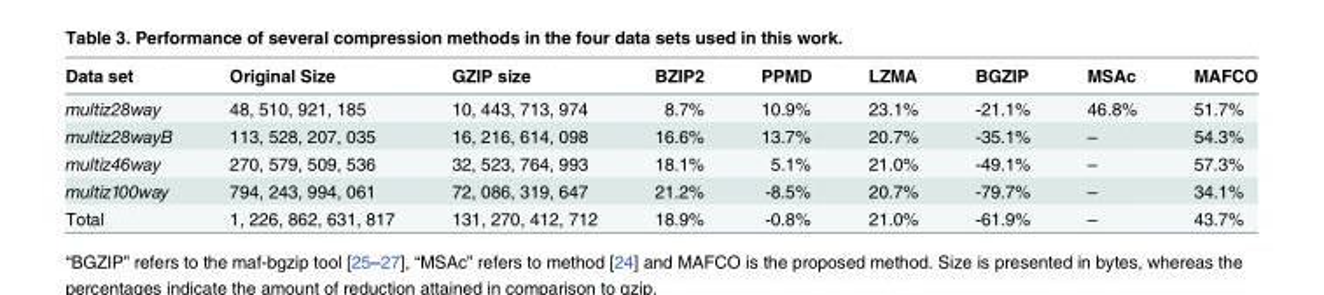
<table><thead><tr><td>Data set</td><td>Original Size</td><td>GZIP size</td><td>BZIP2</td><td>PPMD</td><td>LZMA</td><td>BGZIP</td><td>MSAc</td><td>MAFCO</td></tr></thead><tbody><tr><td>multiz28way</td><td>48, 510, 921, 185</td><td>10, 443, 713, 974</td><td>8.7%</td><td>10.9%</td><td>23.1%</td><td>-21.1%</td><td>46.8%</td><td>51.7%</td></tr><tr><td>multiz28wayB</td><td>113, 528, 207, 035</td><td>16, 216, 614, 098</td><td>16.6%</td><td>13.7%</td><td>20.7%</td><td>-35.1%</td><td>–</td><td>54.3%</td></tr><tr><td>multiz46way</td><td>270, 579, 509, 536</td><td>32, 523, 764, 993</td><td>18.1%</td><td>5.1%</td><td>21.0%</td><td>-49.1%</td><td>–</td><td>57.3%</td></tr><tr><td>multiz100way</td><td>794, 243, 994, 061</td><td>72, 086, 319, 647</td><td>21.2%</td><td>-8.5%</td><td>20.7%</td><td>-79.7%</td><td>–</td><td>34.1%</td></tr><tr><td>Total</td><td>1, 226, 862, 631, 817</td><td>131, 270, 412, 712</td><td>18.9%</td><td>-0.8%</td><td>21.0%</td><td>-61.9%</td><td>–</td><td>43.7%</td></tr></tbody></table>